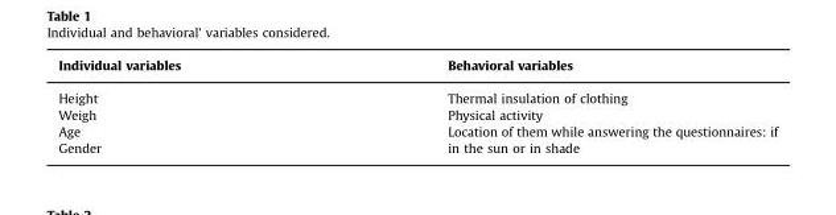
<table><thead><tr><td>Individual variables</td><td>Behavioral variables</td></tr></thead><tbody><tr><td>Height</td><td>Thermal insulation of clothing</td></tr><tr><td>Weigh</td><td>Physical activity</td></tr><tr><td>Age</td><td rowspan="2">Location of them while answering the questionnaires: if in the sun or in shade</td></tr><tr><td>Gender</td></tr></tbody></table>